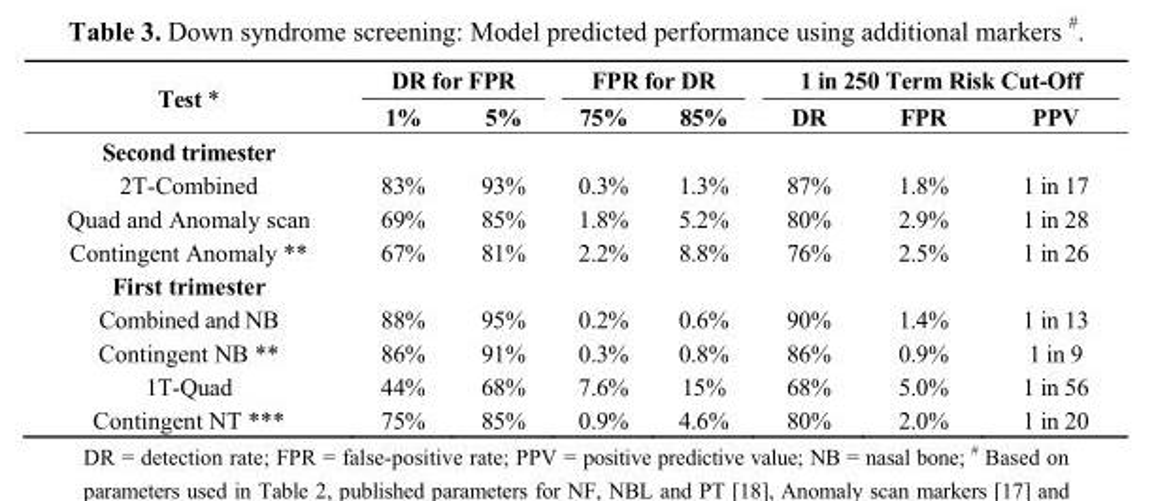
<table><thead><tr><td rowspan="2">Test *</td><td colspan="2">DR for FPR</td><td colspan="2">FPR for DR</td><td colspan="3">1 in 250 Term Risk Cut-Off</td></tr><tr><td>1%</td><td>5%</td><td>75%</td><td>85%</td><td>DR</td><td>FPR</td><td>PPV</td></tr></thead><tbody><tr><td colspan="8">Second trimester</td></tr><tr><td>2T-Combined</td><td>83%</td><td>93%</td><td>0.3%</td><td>1.3%</td><td>87%</td><td>1.8%</td><td>1 in 17</td></tr><tr><td>Quad and Anomaly scan</td><td>69%</td><td>85%</td><td>1.8%</td><td>5.2%</td><td>80%</td><td>2.9%</td><td>1 in 28</td></tr><tr><td>Contingent Anomaly **</td><td>67%</td><td>81%</td><td>2.2%</td><td>8.8%</td><td>76%</td><td>2.5%</td><td>1 in 26</td></tr><tr><td colspan="8">First trimester</td></tr><tr><td>Combined and NB</td><td>88%</td><td>95%</td><td>0.2%</td><td>0.6%</td><td>90%</td><td>1.4%</td><td>1 in 13</td></tr><tr><td>Contingent NB **</td><td>86%</td><td>91%</td><td>0.3%</td><td>0.8%</td><td>86%</td><td>0.9%</td><td>1 in 9</td></tr><tr><td>1T-Quad</td><td>44%</td><td>68%</td><td>7.6%</td><td>15%</td><td>68%</td><td>5.0%</td><td>1 in 56</td></tr><tr><td>Contingent NT ***</td><td>75%</td><td>85%</td><td>0.9%</td><td>4.6%</td><td>80%</td><td>2.0%</td><td>1 in 20</td></tr></tbody></table>